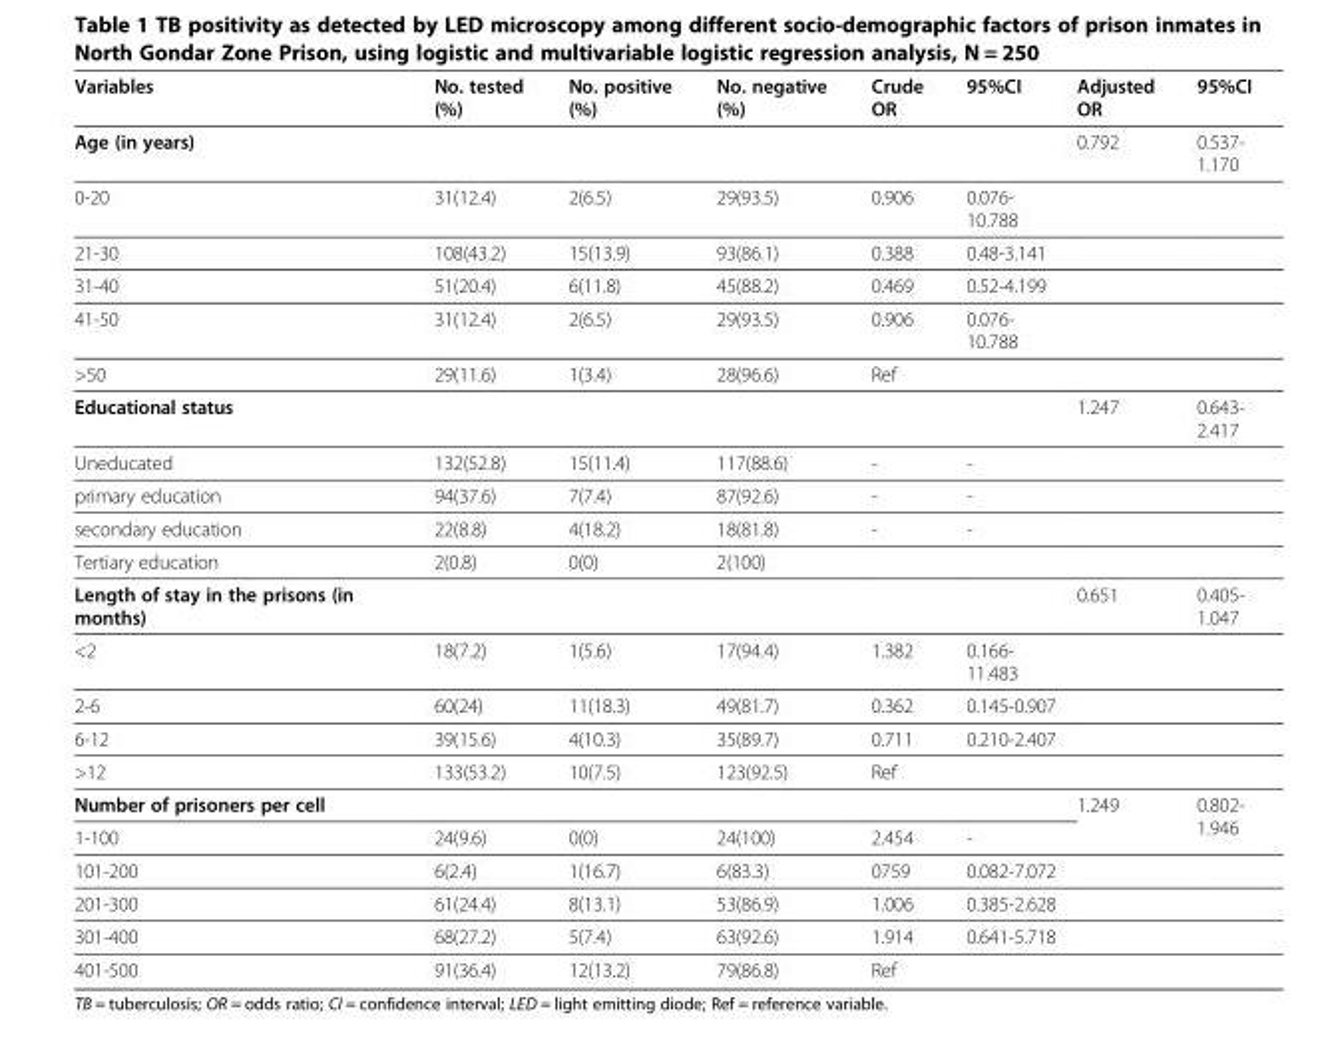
<table><thead><tr><td>Variables</td><td>No. tested (%)</td><td>No. positive (%)</td><td>No. negative (%)</td><td>Crude OR</td><td>95%CI</td><td>Adjusted OR</td><td>95%CI</td></tr></thead><tbody><tr><td>Age (in years)</td><td></td><td></td><td></td><td></td><td></td><td>0.792</td><td>0.537- 1.170</td></tr><tr><td>0-20</td><td>31(12.4)</td><td>2(6.5)</td><td>29(93.5)</td><td>0.906</td><td>0.076- 10.788</td><td></td><td></td></tr><tr><td>21-30</td><td>108(43.2)</td><td>15(13.9)</td><td>93(86.1)</td><td>0.388</td><td>0.48-3.141</td><td></td><td></td></tr><tr><td>31-40</td><td>51(20.4)</td><td>6(11.8)</td><td>45(88.2)</td><td>0.469</td><td>0.52-4.199</td><td></td><td></td></tr><tr><td>41-50</td><td>31(12.4)</td><td>2(6.5)</td><td>29(93.5)</td><td>0.906</td><td>0.076- 10.788</td><td></td><td></td></tr><tr><td>&gt;50</td><td>29(11.6)</td><td>1(3.4)</td><td>28(96.6)</td><td>Ref</td><td></td><td></td><td></td></tr><tr><td>Educational status</td><td></td><td></td><td></td><td></td><td></td><td>1.247</td><td>0.643- 2.417</td></tr><tr><td>Uneducated</td><td>132(52.8)</td><td>15(11.4)</td><td>117(88.6)</td><td>-</td><td>-</td><td></td><td></td></tr><tr><td>primary education</td><td>94(37.6)</td><td>7(7.4)</td><td>87(92.6)</td><td>-</td><td>-</td><td></td><td></td></tr><tr><td>secondary education</td><td>22(8.8)</td><td>4(18.2)</td><td>18(81.8)</td><td>-</td><td>-</td><td></td><td></td></tr><tr><td>Tertiary education</td><td>2(0.8)</td><td>0(0)</td><td>2(100)</td><td></td><td></td><td></td><td></td></tr><tr><td>Length of stay in the prisons (in months)</td><td></td><td></td><td></td><td></td><td></td><td>0.651</td><td>0.405- 1.047</td></tr><tr><td>&lt;2</td><td>18(7.2)</td><td>1(5.6)</td><td>17(94.4)</td><td>1.382</td><td>0.166- 11.483</td><td></td><td></td></tr><tr><td>2-6</td><td>60(24)</td><td>11(18.3)</td><td>49(81.7)</td><td>0.362</td><td>0.145-0.907</td><td></td><td></td></tr><tr><td>6-12</td><td>39(15.6)</td><td>4(10.3)</td><td>35(89.7)</td><td>0.711</td><td>0.210-2.407</td><td></td><td></td></tr><tr><td>&gt;12</td><td>133(53.2)</td><td>10(7.5)</td><td>123(92.5)</td><td>Ref</td><td></td><td></td><td></td></tr><tr><td colspan="6">Number of prisoners per cell</td><td rowspan="2">1.249</td><td rowspan="2">0.802- 1.946</td></tr><tr><td>1-100</td><td>24(9.6)</td><td>0(0)</td><td>24(100)</td><td>2.454</td><td>-</td></tr><tr><td>101-200</td><td>6(2.4)</td><td>1(16.7)</td><td>6(83.3)</td><td>0759</td><td>0.082-7.072</td><td></td><td></td></tr><tr><td>201-300</td><td>61(24.4)</td><td>8(13.1)</td><td>53(86.9)</td><td>1.006</td><td>0.385-2.628</td><td></td><td></td></tr><tr><td>301-400</td><td>68(27.2)</td><td>5(7.4)</td><td>63(92.6)</td><td>1.914</td><td>0.641-5.718</td><td></td><td></td></tr><tr><td>401-500</td><td>91(36.4)</td><td>12(13.2)</td><td>79(86.8)</td><td>Ref</td><td></td><td></td><td></td></tr></tbody></table>